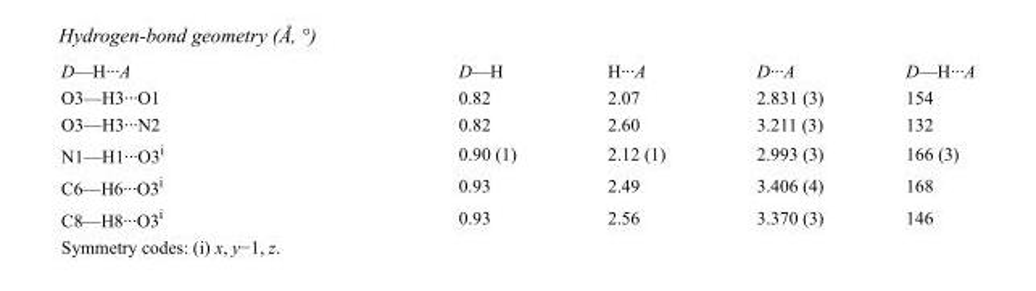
<table><tbody><tr><td>D—H···A</td><td>D—H</td><td>H···A</td><td>D···A</td><td>D—H···A</td></tr><tr><td>O3—H3···O1</td><td>0.82</td><td>2.07</td><td>2.831 (3)</td><td>154</td></tr><tr><td>O3—H3···N2</td><td>0.82</td><td>2.60</td><td>3.211 (3)</td><td>132</td></tr><tr><td>N1—H1···O3<sup>i</sup></td><td>0.90 (1)</td><td>2.12 (1)</td><td>2.993 (3)</td><td>166 (3)</td></tr><tr><td>C6—H6···O3<sup>i</sup></td><td>0.93</td><td>2.49</td><td>3.406 (4)</td><td>168</td></tr><tr><td>C8—H8···O3<sup>i</sup></td><td>0.93</td><td>2.56</td><td>3.370 (3)</td><td>146</td></tr></tbody></table>